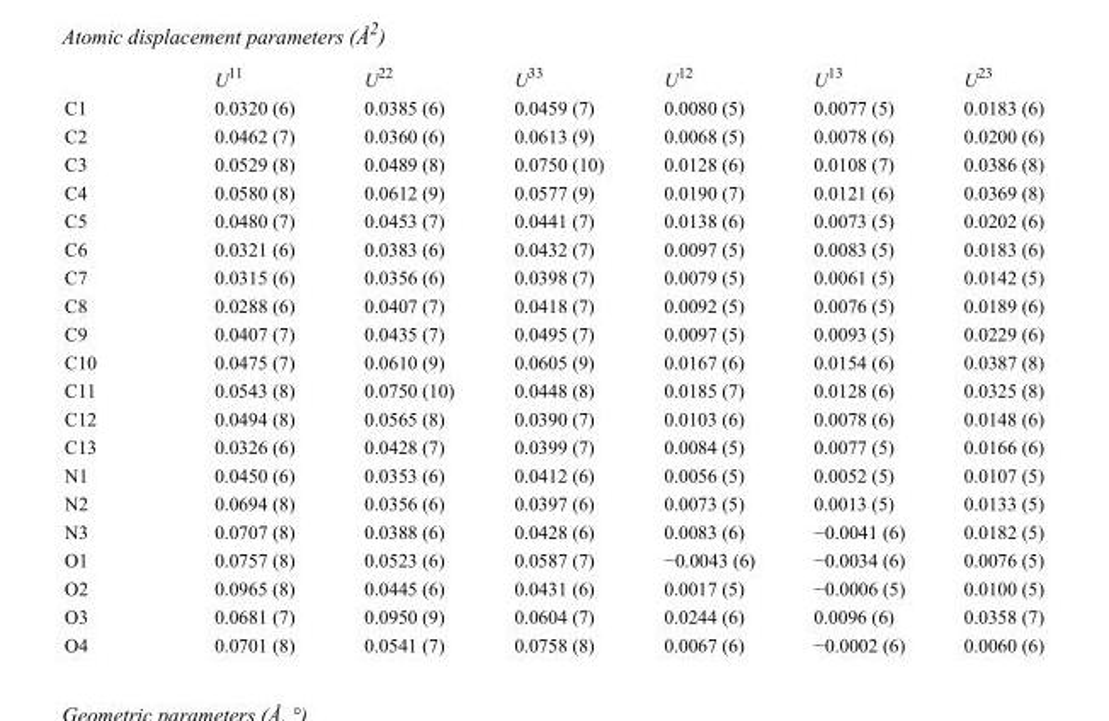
<table><thead><tr><td></td><td>U<sup>11</sup></td><td>U<sup>22</sup></td><td>U<sup>33</sup></td><td>U<sup>12</sup></td><td>U<sup>13</sup></td><td>U<sup>23</sup></td></tr></thead><tbody><tr><td>C1</td><td>0.0320 (6)</td><td>0.0385 (6)</td><td>0.0459 (7)</td><td>0.0080 (5)</td><td>0.0077 (5)</td><td>0.0183 (6)</td></tr><tr><td>C2</td><td>0.0462 (7)</td><td>0.0360 (6)</td><td>0.0613 (9)</td><td>0.0068 (5)</td><td>0.0078 (6)</td><td>0.0200 (6)</td></tr><tr><td>C3</td><td>0.0529 (8)</td><td>0.0489 (8)</td><td>0.0750 (10)</td><td>0.0128 (6)</td><td>0.0108 (7)</td><td>0.0386 (8)</td></tr><tr><td>C4</td><td>0.0580 (8)</td><td>0.0612 (9)</td><td>0.0577 (9)</td><td>0.0190 (7)</td><td>0.0121 (6)</td><td>0.0369 (8)</td></tr><tr><td>C5</td><td>0.0480 (7)</td><td>0.0453 (7)</td><td>0.0441 (7)</td><td>0.0138 (6)</td><td>0.0073 (5)</td><td>0.0202 (6)</td></tr><tr><td>C6</td><td>0.0321 (6)</td><td>0.0383 (6)</td><td>0.0432 (7)</td><td>0.0097 (5)</td><td>0.0083 (5)</td><td>0.0183 (6)</td></tr><tr><td>C7</td><td>0.0315 (6)</td><td>0.0356 (6)</td><td>0.0398 (7)</td><td>0.0079 (5)</td><td>0.0061 (5)</td><td>0.0142 (5)</td></tr><tr><td>C8</td><td>0.0288 (6)</td><td>0.0407 (7)</td><td>0.0418 (7)</td><td>0.0092 (5)</td><td>0.0076 (5)</td><td>0.0189 (6)</td></tr><tr><td>C9</td><td>0.0407 (7)</td><td>0.0435 (7)</td><td>0.0495 (7)</td><td>0.0097 (5)</td><td>0.0093 (5)</td><td>0.0229 (6)</td></tr><tr><td>C10</td><td>0.0475 (7)</td><td>0.0610 (9)</td><td>0.0605 (9)</td><td>0.0167 (6)</td><td>0.0154 (6)</td><td>0.0387 (8)</td></tr><tr><td>C11</td><td>0.0543 (8)</td><td>0.0750 (10)</td><td>0.0448 (8)</td><td>0.0185 (7)</td><td>0.0128 (6)</td><td>0.0325 (8)</td></tr><tr><td>C12</td><td>0.0494 (8)</td><td>0.0565 (8)</td><td>0.0390 (7)</td><td>0.0103 (6)</td><td>0.0078 (6)</td><td>0.0148 (6)</td></tr><tr><td>C13</td><td>0.0326 (6)</td><td>0.0428 (7)</td><td>0.0399 (7)</td><td>0.0084 (5)</td><td>0.0077 (5)</td><td>0.0166 (6)</td></tr><tr><td>N1</td><td>0.0450 (6)</td><td>0.0353 (6)</td><td>0.0412 (6)</td><td>0.0056 (5)</td><td>0.0052 (5)</td><td>0.0107 (5)</td></tr><tr><td>N2</td><td>0.0694 (8)</td><td>0.0356 (6)</td><td>0.0397 (6)</td><td>0.0073 (5)</td><td>0.0013 (5)</td><td>0.0133 (5)</td></tr><tr><td>N3</td><td>0.0707 (8)</td><td>0.0388 (6)</td><td>0.0428 (6)</td><td>0.0083 (6)</td><td>−0.0041 (6)</td><td>0.0182 (5)</td></tr><tr><td>O1</td><td>0.0757 (8)</td><td>0.0523 (6)</td><td>0.0587 (7)</td><td>−0.0043 (6)</td><td>−0.0034 (6)</td><td>0.0076 (5)</td></tr><tr><td>O2</td><td>0.0965 (8)</td><td>0.0445 (6)</td><td>0.0431 (6)</td><td>0.0017 (5)</td><td>−0.0006 (5)</td><td>0.0100 (5)</td></tr><tr><td>O3</td><td>0.0681 (7)</td><td>0.0950 (9)</td><td>0.0604 (7)</td><td>0.0244 (6)</td><td>0.0096 (6)</td><td>0.0358 (7)</td></tr><tr><td>O4</td><td>0.0701 (8)</td><td>0.0541 (7)</td><td>0.0758 (8)</td><td>0.0067 (6)</td><td>−0.0002 (6)</td><td>0.0060 (6)</td></tr></tbody></table>